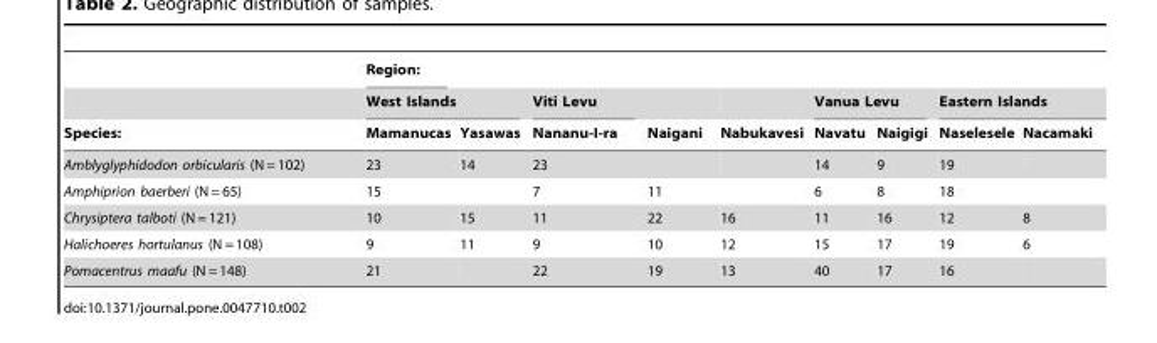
<table><thead><tr><td rowspan="3">Species:</td><td>Region:</td><td></td><td rowspan="3">Viti Levu Nananu-I-ra</td><td rowspan="3">Naigani</td><td rowspan="3">Nabukavesi</td><td></td><td></td><td></td><td></td></tr><tr><td colspan="2">West Islands</td><td colspan="2">Vanua Levu</td><td colspan="2">Eastern Islands</td></tr><tr><td>Mamanucas</td><td>Yasawas</td><td>Navatu</td><td>Naigigi</td><td>Naselesele</td><td>Nacamaki</td></tr></thead><tbody><tr><td>Amblyglyphidodon orbicularis (N = 102)</td><td>23</td><td>14</td><td>23</td><td></td><td></td><td>14</td><td>9</td><td>19</td><td></td></tr><tr><td>Amphiprion baerberi (N = 65)</td><td>15</td><td></td><td>7</td><td>11</td><td></td><td>6</td><td>8</td><td>18</td><td></td></tr><tr><td>Chrysiptera talboti (N = 121)</td><td>10</td><td>15</td><td>11</td><td>22</td><td>16</td><td>11</td><td>16</td><td>12</td><td>8</td></tr><tr><td>Halichoeres hortulanus (N = 108)</td><td>9</td><td>11</td><td>9</td><td>10</td><td>12</td><td>15</td><td>17</td><td>19</td><td>6</td></tr><tr><td>Pomacentrus maafu (N = 148)</td><td>21</td><td></td><td>22</td><td>19</td><td>13</td><td>40</td><td>17</td><td>16</td><td></td></tr></tbody></table>